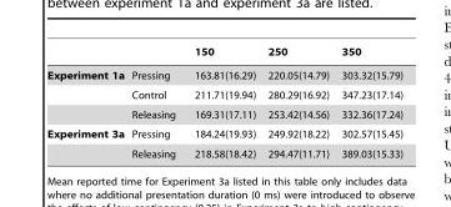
<table><thead><tr><td></td><td></td><td>150</td><td>250</td><td>350</td></tr></thead><tbody><tr><td rowspan="3">Experiment 1a</td><td>Pressing</td><td>163.81(16.29)</td><td>220.05(14.79)</td><td>303.32(15.79)</td></tr><tr><td>Control</td><td>211.71(19.94)</td><td>280.29(16.92)</td><td>347.23(17.14)</td></tr><tr><td>Releasing</td><td>169.31(17.11)</td><td>253.42(14.56)</td><td>332.36(17.24)</td></tr><tr><td rowspan="2">Experiment 3a</td><td>Pressing</td><td>184.24(19.93)</td><td>249.92(18.22)</td><td>302.57(15.45)</td></tr><tr><td>Releasing</td><td>218.58(18.42)</td><td>294.47(11.71)</td><td>389.03(15.33)</td></tr></tbody></table>